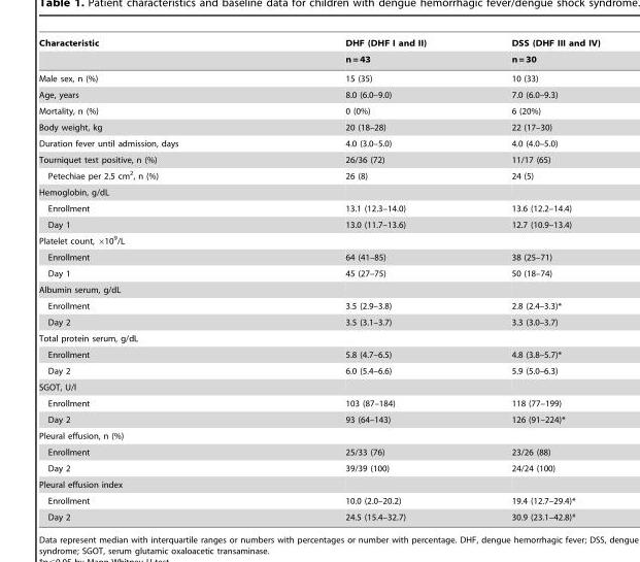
<table><thead><tr><td rowspan="2">Characteristic</td><td rowspan="2">DHF (DHF I and II) n = 43</td><td rowspan="2">DSS (DHF III and IV) n = 30</td></tr><tr></tr></thead><tbody><tr><td>Male sex, n (%)</td><td>15 (35)</td><td>10 (33)</td></tr><tr><td>Age, years</td><td>8.0 (6.0–9.0)</td><td>7.0 (6.0–9.3)</td></tr><tr><td>Mortality, n (%)</td><td>0 (0%)</td><td>6 (20%)</td></tr><tr><td>Body weight, kg</td><td>20 (18–28)</td><td>22 (17–30)</td></tr><tr><td>Duration fever until admission, days</td><td>4.0 (3.0–5.0)</td><td>4.0 (4.0–5.0)</td></tr><tr><td>Tourniquet test positive, n (%)</td><td>26/36 (72)</td><td>11/17 (65)</td></tr><tr><td>Petechiae per 2.5 cm<sup>2</sup>, n (%)</td><td>26 (8)</td><td>24 (5)</td></tr><tr><td colspan="3">Hemoglobin, g/dL</td></tr><tr><td>Enrollment</td><td>13.1 (12.3–14.0)</td><td>13.6 (12.2–14.4)</td></tr><tr><td>Day 1</td><td>13.0 (11.7–13.6)</td><td>12.7 (10.9–13.4)</td></tr><tr><td colspan="3">Platelet count, ×10<sup>9</sup>/L</td></tr><tr><td>Enrollment</td><td>64 (41–85)</td><td>38 (25–71)</td></tr><tr><td>Day 1</td><td>45 (27–75)</td><td>50 (18–74)</td></tr><tr><td colspan="3">Albumin serum, g/dL</td></tr><tr><td>Enrollment</td><td>3.5 (2.9–3.8)</td><td>2.8 (2.4–3.3)*</td></tr><tr><td>Day 2</td><td>3.5 (3.1–3.7)</td><td>3.3 (3.0–3.7)</td></tr><tr><td colspan="3">Total protein serum, g/dL</td></tr><tr><td>Enrollment</td><td>5.8 (4.7–6.5)</td><td>4.8 (3.8–5.7)*</td></tr><tr><td>Day 2</td><td>6.0 (5.4–6.6)</td><td>5.9 (5.0–6.3)</td></tr><tr><td colspan="3">SGOT, U/l</td></tr><tr><td>Enrollment</td><td>103 (87–184)</td><td>118 (77–199)</td></tr><tr><td>Day 2</td><td>93 (64–143)</td><td>126 (91–224)*</td></tr><tr><td colspan="3">Pleural effusion, n (%)</td></tr><tr><td>Enrollment</td><td>25/33 (76)</td><td>23/26 (88)</td></tr><tr><td>Day 2</td><td>39/39 (100)</td><td>24/24 (100)</td></tr><tr><td colspan="3">Pleural effusion index</td></tr><tr><td>Enrollment</td><td>10.0 (2.0–20.2)</td><td>19.4 (12.7–29.4)*</td></tr><tr><td>Day 2</td><td>24.5 (15.4–32.7)</td><td>30.9 (23.1–42.8)*</td></tr></tbody></table>